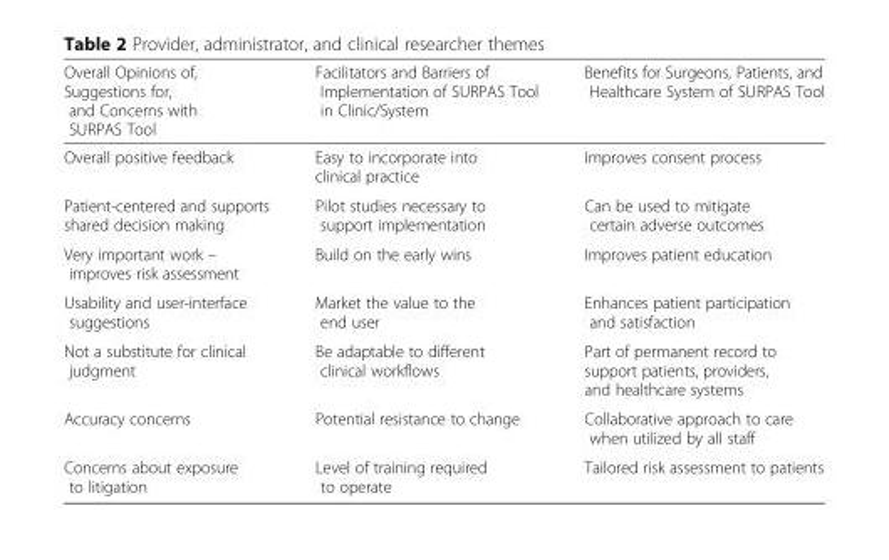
<table><thead><tr><td>Overall Opinions of, Suggestions for, and Concerns with SURPAS Tool</td><td>Facilitators and Barriers of Implementation of SURPAS Tool in Clinic/System</td><td>Benefits for Surgeons, Patients, and Healthcare System of SURPAS Tool</td></tr></thead><tbody><tr><td>Overall positive feedback</td><td>Easy to incorporate into clinical practice</td><td>Improves consent process</td></tr><tr><td>Patient-centered and supports shared decision making</td><td>Pilot studies necessary to support implementation</td><td>Can be used to mitigate certain adverse outcomes</td></tr><tr><td>Very important work – improves risk assessment</td><td>Build on the early wins</td><td>Improves patient education</td></tr><tr><td>Usability and user-interface suggestions</td><td>Market the value to the end user</td><td>Enhances patient participation and satisfaction</td></tr><tr><td>Not a substitute for clinical judgment</td><td>Be adaptable to different clinical workflows</td><td>Part of permanent record to support patients, providers, and healthcare systems</td></tr><tr><td>Accuracy concerns</td><td>Potential resistance to change</td><td>Collaborative approach to care when utilized by all staff</td></tr><tr><td>Concerns about exposure to litigation</td><td>Level of training required to operate</td><td>Tailored risk assessment to patients</td></tr></tbody></table>